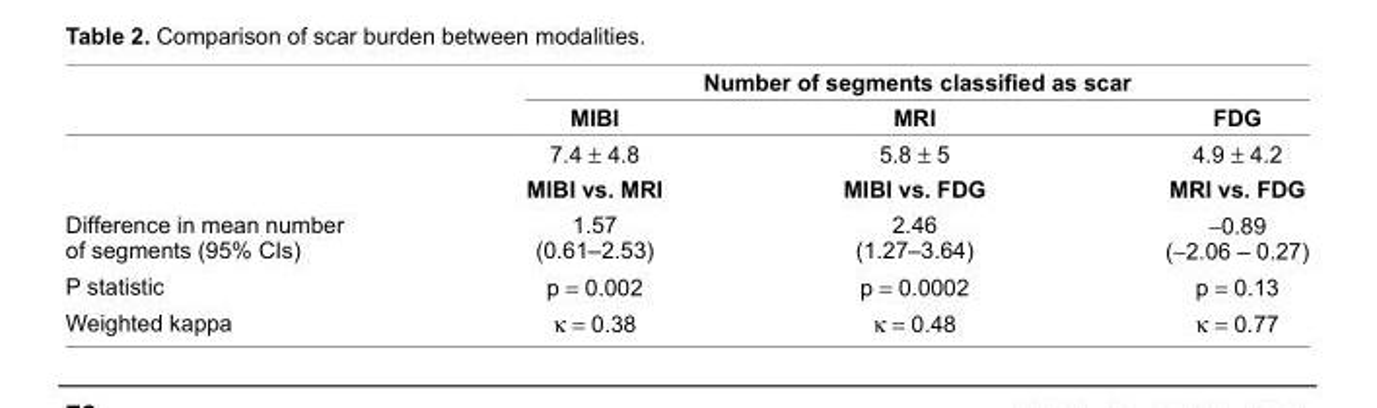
<table><thead><tr><td rowspan="2"></td><td colspan="3">Number of segments classified as scar</td></tr><tr><td>MIBI</td><td>MRI</td><td>FDG</td></tr></thead><tbody><tr><td></td><td>7.4 ± 4.8</td><td>5.8 ± 5</td><td>4.9 ± 4.2</td></tr><tr><td></td><td>MIBI vs. MRI</td><td>MIBI vs. FDG</td><td>MRI vs. FDG</td></tr><tr><td>Difference in mean number of segments (95% Cis)</td><td>1.57 (0.61–2.53)</td><td>2.46 (1.27–3.64)</td><td>-0.89 (-2.06 – 0.27)</td></tr><tr><td>P statistic</td><td>p = 0.002</td><td>p = 0.0002</td><td>p = 0.13</td></tr><tr><td>Weighted kappa</td><td>κ = 0.38</td><td>κ = 0.48</td><td>κ = 0.77</td></tr></tbody></table>